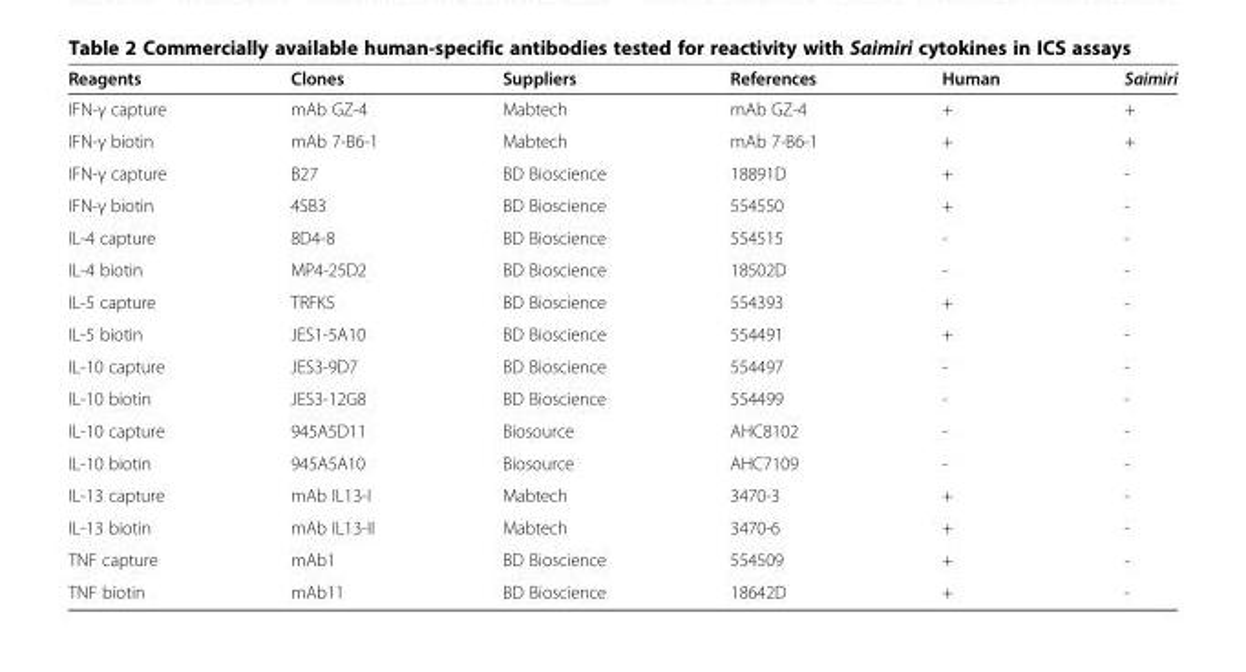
<table><thead><tr><td>Reagents</td><td>Clones</td><td>Suppliers</td><td>References</td><td>Human</td><td>Saimiri</td></tr></thead><tbody><tr><td>IFN-γ capture</td><td>mAb GZ-4</td><td>Mabtech</td><td>mAb GZ-4</td><td>+</td><td>+</td></tr><tr><td>IFN-γ biotin</td><td>mAb 7-B6-1</td><td>Mabtech</td><td>mAb 7-B6-1</td><td>+</td><td>+</td></tr><tr><td>IFN-γ capture</td><td>B27</td><td>BD Bioscience</td><td>18891D</td><td>+</td><td>-</td></tr><tr><td>IFN-γ biotin</td><td>4SB3</td><td>BD Bioscience</td><td>554550</td><td>+</td><td>-</td></tr><tr><td>IL-4 capture</td><td>8D4-8</td><td>BD Bioscience</td><td>554515</td><td>-</td><td>-</td></tr><tr><td>IL-4 biotin</td><td>MP4-25D2</td><td>BD Bioscience</td><td>18502D</td><td>-</td><td>-</td></tr><tr><td>IL-5 capture</td><td>TRFK5</td><td>BD Bioscience</td><td>554393</td><td>+</td><td>-</td></tr><tr><td>IL-5 biotin</td><td>JES1-5A10</td><td>BD Bioscience</td><td>554491</td><td>+</td><td>-</td></tr><tr><td>IL-10 capture</td><td>JES3-9D7</td><td>BD Bioscience</td><td>554497</td><td>-</td><td>-</td></tr><tr><td>IL-10 biotin</td><td>JES3-12G8</td><td>BD Bioscience</td><td>554499</td><td>-</td><td>-</td></tr><tr><td>IL-10 capture</td><td>945A5D11</td><td>Biosource</td><td>AHC8102</td><td>-</td><td>-</td></tr><tr><td>IL-10 biotin</td><td>945A5A10</td><td>Biosource</td><td>AHC7109</td><td>-</td><td>-</td></tr><tr><td>IL-13 capture</td><td>mAb IL13-I</td><td>Mabtech</td><td>3470-3</td><td>+</td><td>-</td></tr><tr><td>IL-13 biotin</td><td>mAb IL13-II</td><td>Mabtech</td><td>3470-6</td><td>+</td><td>-</td></tr><tr><td>TNF capture</td><td>mAb1</td><td>BD Bioscience</td><td>554509</td><td>+</td><td>-</td></tr><tr><td>TNF biotin</td><td>mAb11</td><td>BD Bioscience</td><td>18642D</td><td>+</td><td>-</td></tr></tbody></table>